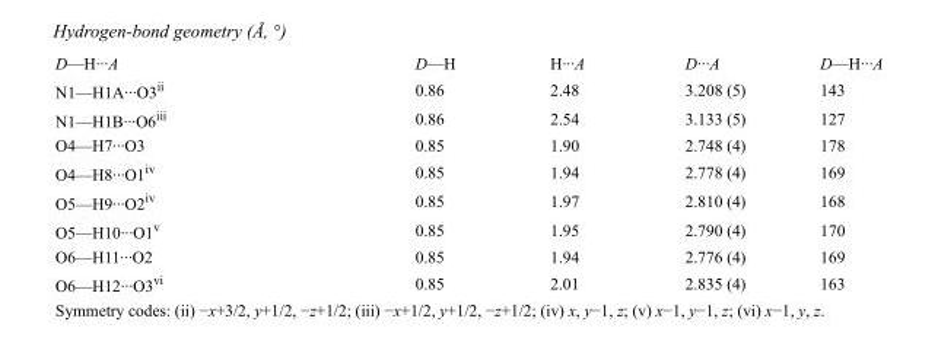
<table><tbody><tr><td>D—H···A</td><td>D—H</td><td>H···A</td><td>D···A</td><td>D—H···A</td></tr><tr><td>N1—H1A···O3<sup>ii</sup></td><td>0.86</td><td>2.48</td><td>3.208 (5)</td><td>143</td></tr><tr><td>N1—H1B···O6<sup>iii</sup></td><td>0.86</td><td>2.54</td><td>3.133 (5)</td><td>127</td></tr><tr><td>O4—H7···O3</td><td>0.85</td><td>1.90</td><td>2.748 (4)</td><td>178</td></tr><tr><td>O4—H8···O1<sup>iv</sup></td><td>0.85</td><td>1.94</td><td>2.778 (4)</td><td>169</td></tr><tr><td>O5—H9···O2<sup>iv</sup></td><td>0.85</td><td>1.97</td><td>2.810 (4)</td><td>168</td></tr><tr><td>O5—H10···O1<sup>v</sup></td><td>0.85</td><td>1.95</td><td>2.790 (4)</td><td>170</td></tr><tr><td>O6—H11···O2</td><td>0.85</td><td>1.94</td><td>2.776 (4)</td><td>169</td></tr><tr><td>O6—H12···O3<sup>vi</sup></td><td>0.85</td><td>2.01</td><td>2.835 (4)</td><td>163</td></tr></tbody></table>